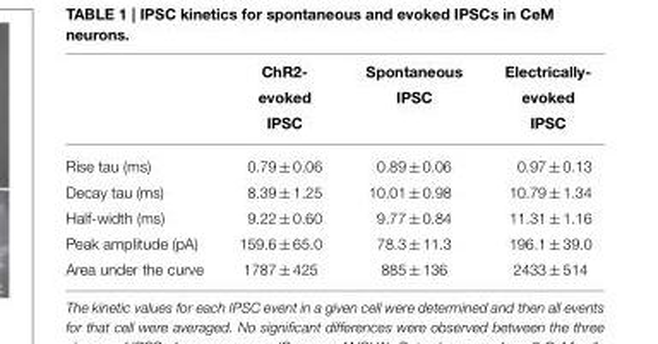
<table><thead><tr><td></td><td>ChR2- evoked IPSC</td><td>Spontaneous IPSC</td><td>Electrically- evoked IPSC</td></tr></thead><tbody><tr><td>Rise tau (ms)</td><td>0.79 ± 0.06</td><td>0.89 ± 0.06</td><td>0.97 ± 0.13</td></tr><tr><td>Decay tau (ms)</td><td>8.39 ± 1.25</td><td>10.01 ± 0.98</td><td>10.79 ± 1.34</td></tr><tr><td>Half-width (ms)</td><td>9.22 ± 0.60</td><td>9.77 ± 0.84</td><td>11.31 ± 1.16</td></tr><tr><td>Peak amplitude (pA)</td><td>159.6 ± 65.0</td><td>78.3 ± 11.3</td><td>196.1 ± 39.0</td></tr><tr><td>Area under the curve</td><td>1787 ± 425</td><td>885 ± 136</td><td>2433 ± 514</td></tr></tbody></table>